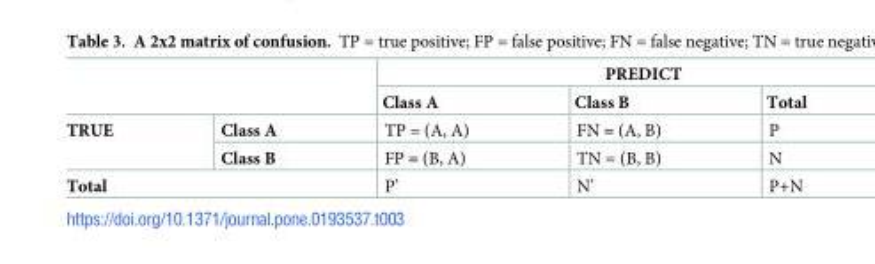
<table><thead><tr><td rowspan="2"></td><td rowspan="2"></td><td colspan="3">PREDICT</td></tr><tr><td>Class A</td><td>Class B</td><td>Total</td></tr></thead><tbody><tr><td rowspan="2">TRUE</td><td>Class A</td><td>TP = (A, A)</td><td>FN = (A, B)</td><td>P</td></tr><tr><td>Class B</td><td>FP = (B, A)</td><td>TN = (B, B)</td><td>N</td></tr><tr><td colspan="2">Total</td><td>P’</td><td>N’</td><td>P+N</td></tr></tbody></table>